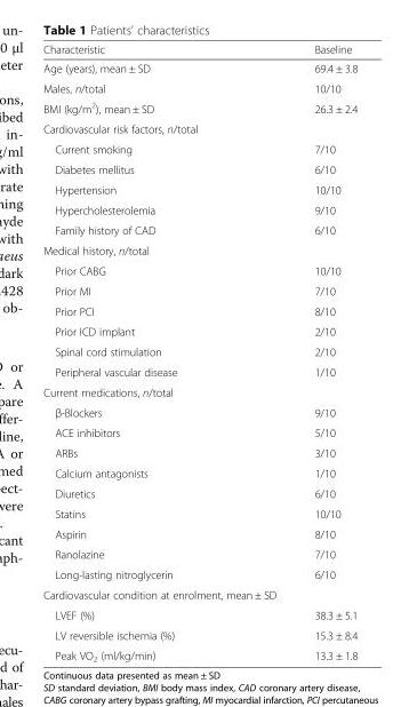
<table><thead><tr><td>Characteristic</td><td>Baseline</td></tr></thead><tbody><tr><td>Age (years), mean ± SD</td><td>69.4 ± 3.8</td></tr><tr><td>Males, n/total</td><td>10/10</td></tr><tr><td>BMI (kg/m<sup>2</sup>), mean ± SD</td><td>26.3 ± 2.4</td></tr><tr><td colspan="2">Cardiovascular risk factors, n/total</td></tr><tr><td>Current smoking</td><td>7/10</td></tr><tr><td>Diabetes mellitus</td><td>6/10</td></tr><tr><td>Hypertension</td><td>10/10</td></tr><tr><td>Hypercholesterolemia</td><td>9/10</td></tr><tr><td>Family history of CAD</td><td>6/10</td></tr><tr><td colspan="2">Medical history, n/total</td></tr><tr><td>Prior CABG</td><td>10/10</td></tr><tr><td>Prior MI</td><td>7/10</td></tr><tr><td>Prior PCI</td><td>8/10</td></tr><tr><td>Prior ICD implant</td><td>2/10</td></tr><tr><td>Spinal cord stimulation</td><td>2/10</td></tr><tr><td>Peripheral vascular disease</td><td>1/10</td></tr><tr><td colspan="2">Current medications, n/total</td></tr><tr><td>β-Blockers</td><td>9/10</td></tr><tr><td>ACE inhibitors</td><td>5/10</td></tr><tr><td>ARBs</td><td>3/10</td></tr><tr><td>Calcium antagonists</td><td>1/10</td></tr><tr><td>Diuretics</td><td>6/10</td></tr><tr><td>Statins</td><td>10/10</td></tr><tr><td>Aspirin</td><td>8/10</td></tr><tr><td>Ranolazine</td><td>7/10</td></tr><tr><td>Long-lasting nitroglycerin</td><td>6/10</td></tr><tr><td colspan="2">Cardiovascular condition at enrolment, mean ± SD</td></tr><tr><td>LVEF (%)</td><td>38.3 ± 5.1</td></tr><tr><td>LV reversible ischemia (%)</td><td>15.3 ± 8.4</td></tr><tr><td>Peak VO<sub>2</sub> (ml/kg/min)</td><td>13.3 ± 1.8</td></tr></tbody></table>